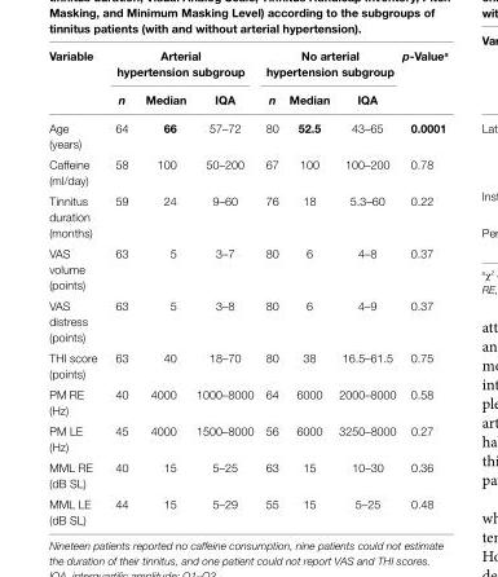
<table><thead><tr><td rowspan="2">Variable</td><td colspan="3">arterial hypertension subgroup</td><td colspan="3">no arterial hypertension subgroup</td><td rowspan="2">p-Value<sup>a</sup></td></tr><tr><td>n</td><td>Median</td><td>iQa</td><td>n</td><td>Median</td><td>iQa</td></tr></thead><tbody><tr><td>Age (years)</td><td>64</td><td>66</td><td>57–72</td><td>80</td><td>52.5</td><td>43–65</td><td>0.0001</td></tr><tr><td>Caffeine (ml/day)</td><td>58</td><td>100</td><td>50–200</td><td>67</td><td>100</td><td>100–200</td><td>0.78</td></tr><tr><td>Tinnitus duration (months)</td><td>59</td><td>24</td><td>9–60</td><td>76</td><td>18</td><td>5.3–60</td><td>0.22</td></tr><tr><td>VAS volume (points)</td><td>63</td><td>5</td><td>3–7</td><td>80</td><td>6</td><td>4–8</td><td>0.37</td></tr><tr><td>VAS distress (points)</td><td>63</td><td>5</td><td>3–8</td><td>80</td><td>6</td><td>4–9</td><td>0.37</td></tr><tr><td>THI score (points)</td><td>63</td><td>40</td><td>18–70</td><td>80</td><td>38</td><td>16.5–61.5</td><td>0.75</td></tr><tr><td>PM RE (Hz)</td><td>40</td><td>4000</td><td>1000–8000</td><td>64</td><td>6000</td><td>2000–8000</td><td>0.58</td></tr><tr><td>PM LE (Hz)</td><td>45</td><td>4000</td><td>1500–8000</td><td>56</td><td>6000</td><td>3250–8000</td><td>0.27</td></tr><tr><td>MML RE (dB SL)</td><td>40</td><td>15</td><td>5–25</td><td>63</td><td>15</td><td>10–30</td><td>0.36</td></tr><tr><td>MML LE (dB SL)</td><td>44</td><td>15</td><td>5–29</td><td>55</td><td>15</td><td>5–25</td><td>0.48</td></tr></tbody></table>